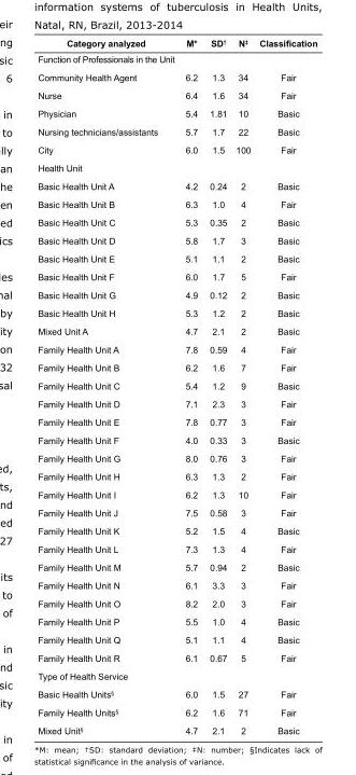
<table><tbody><tr><td>Category analyzed</td><td>M*</td><td>SD<sup>†</sup></td><td>N<sup>‡</sup></td><td>Classification</td></tr><tr><td colspan="5">Function of Professionals in the Unit</td></tr><tr><td>Community Health Agent</td><td>6.2</td><td>1.3</td><td>34</td><td>Fair</td></tr><tr><td>Nurse</td><td>6.4</td><td>1.6</td><td>34</td><td>Fair</td></tr><tr><td>Physician</td><td>5.4</td><td>1.81</td><td>10</td><td>Basic</td></tr><tr><td>Nursing technicians/assistants</td><td>5.7</td><td>1.7</td><td>22</td><td>Basic</td></tr><tr><td>City</td><td>6.0</td><td>1.5</td><td>100</td><td>Fair</td></tr><tr><td colspan="5">Health Unit</td></tr><tr><td>Basic Health Unit A</td><td>4.2</td><td>0.24</td><td>2</td><td>Basic</td></tr><tr><td>Basic Health Unit B</td><td>6.3</td><td>1.0</td><td>4</td><td>Fair</td></tr><tr><td>Basic Health Unit C</td><td>5.3</td><td>0.35</td><td>2</td><td>Basic</td></tr><tr><td>Basic Health Unit D</td><td>5.8</td><td>1.7</td><td>3</td><td>Basic</td></tr><tr><td>Basic Health Unit E</td><td>5.1</td><td>1.1</td><td>2</td><td>Basic</td></tr><tr><td>Basic Health Unit F</td><td>6.0</td><td>1.7</td><td>5</td><td>Fair</td></tr><tr><td>Basic Health Unit G</td><td>4.9</td><td>0.12</td><td>2</td><td>Basic</td></tr><tr><td>Basic Health Unit H</td><td>5.3</td><td>1.2</td><td>2</td><td>Basic</td></tr><tr><td>Mixed Unit A</td><td>4.7</td><td>2.1</td><td>2</td><td>Basic</td></tr><tr><td>Family Health Unit A</td><td>7.8</td><td>0.59</td><td>4</td><td>Fair</td></tr><tr><td>Family Health Unit B</td><td>6.2</td><td>1.6</td><td>7</td><td>Fair</td></tr><tr><td>Family Health Unit C</td><td>5.4</td><td>1.2</td><td>9</td><td>Basic</td></tr><tr><td>Family Health Unit D</td><td>7.1</td><td>2.3</td><td>3</td><td>Fair</td></tr><tr><td>Family Health Unit E</td><td>7.8</td><td>0.77</td><td>3</td><td>Fair</td></tr><tr><td>Family Health Unit F</td><td>4.0</td><td>0.33</td><td>3</td><td>Basic</td></tr><tr><td>Family Health Unit G</td><td>8.0</td><td>0.76</td><td>3</td><td>Fair</td></tr><tr><td>Family Health Unit H</td><td>6.3</td><td>1.3</td><td>2</td><td>Fair</td></tr><tr><td>Family Health Unit I</td><td>6.2</td><td>1.3</td><td>10</td><td>Fair</td></tr><tr><td>Family Health Unit J</td><td>7.5</td><td>0.58</td><td>3</td><td>Fair</td></tr><tr><td>Family Health Unit K</td><td>5.2</td><td>1.5</td><td>4</td><td>Basic</td></tr><tr><td>Family Health Unit L</td><td>7.3</td><td>1.3</td><td>4</td><td>Fair</td></tr><tr><td>Family Health Unit M</td><td>5.7</td><td>0.94</td><td>2</td><td>Basic</td></tr><tr><td>Family Health Unit N</td><td>6.1</td><td>3.3</td><td>3</td><td>Fair</td></tr><tr><td>Family Health Unit O</td><td>8.2</td><td>2.0</td><td>3</td><td>Fair</td></tr><tr><td>Family Health Unit P</td><td>5.5</td><td>1.0</td><td>4</td><td>Basic</td></tr><tr><td>Family Health Unit Q</td><td>5.1</td><td>1.1</td><td>4</td><td>Basic</td></tr><tr><td>Family Health Unit R</td><td>6.1</td><td>0.67</td><td>5</td><td>Fair</td></tr><tr><td colspan="5">Type of Health Service</td></tr><tr><td>Basic Health Units<sup>§</sup></td><td>6.0</td><td>1.5</td><td>27</td><td>Fair</td></tr><tr><td>Family Health Units<sup>§</sup></td><td>6.2</td><td>1.6</td><td>71</td><td>Fair</td></tr><tr><td>Mixed Unit<sup>§</sup></td><td>4.7</td><td>2.1</td><td>2</td><td>Basic</td></tr></tbody></table>